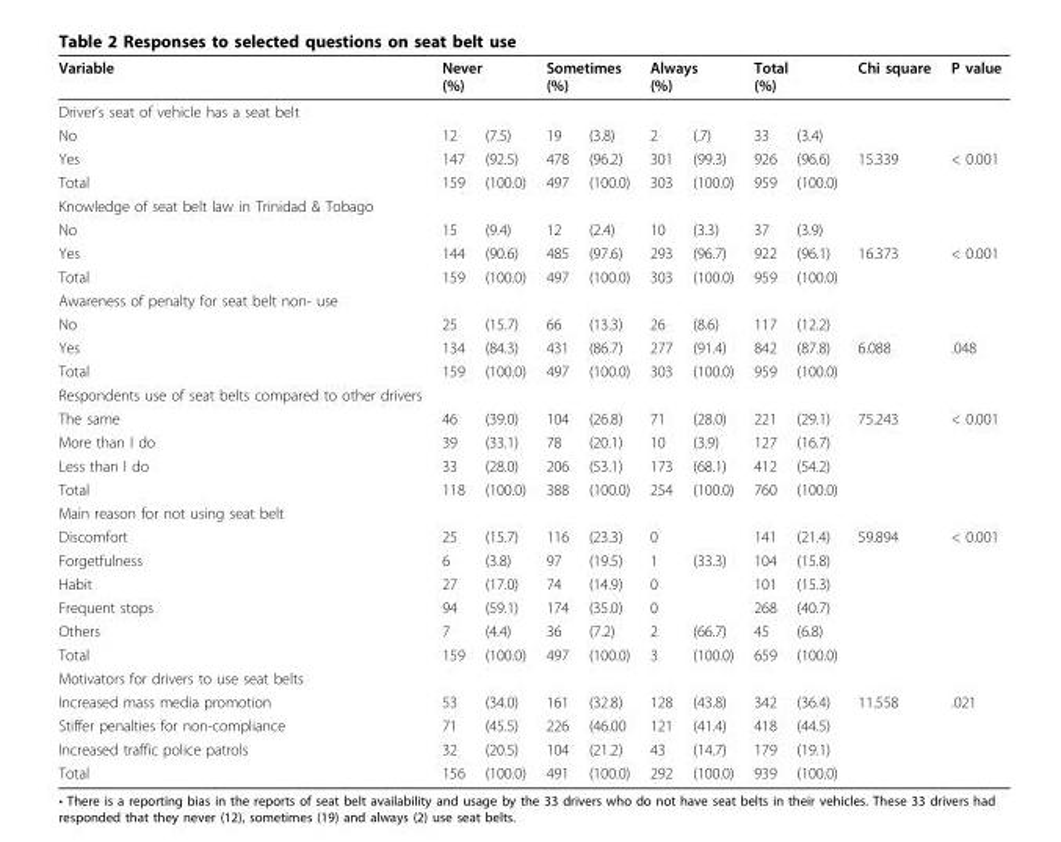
<table><thead><tr><td rowspan="2">Variable Driver’s seat of vehicle has a seat belt</td><td colspan="2">Never (%)</td><td colspan="2">Sometimes (%)</td><td colspan="2">Always (%)</td><td colspan="2">Total (%)</td><td rowspan="2">Chi square</td><td rowspan="2">P value</td></tr><tr><td></td><td></td><td></td><td></td><td></td><td></td><td></td><td></td></tr></thead><tbody><tr><td>No</td><td>12</td><td>(7.5)</td><td>19</td><td>(3.8)</td><td>2</td><td>(.7)</td><td>33</td><td>(3.4)</td><td></td><td></td></tr><tr><td>Yes</td><td>147</td><td>(92.5)</td><td>478</td><td>(96.2)</td><td>301</td><td>(99.3)</td><td>926</td><td>(96.6)</td><td>15.339</td><td>&lt; 0.001</td></tr><tr><td>Total</td><td>159</td><td>(100.0)</td><td>497</td><td>(100.0)</td><td>303</td><td>(100.0)</td><td>959</td><td>(100.0)</td><td></td><td></td></tr><tr><td colspan="11">Knowledge of seat belt law in Trinidad &amp; Tobago</td></tr><tr><td>No</td><td>15</td><td>(9.4)</td><td>12</td><td>(2.4)</td><td>10</td><td>(3.3)</td><td>37</td><td>(3.9)</td><td></td><td></td></tr><tr><td>Yes</td><td>144</td><td>(90.6)</td><td>485</td><td>(97.6)</td><td>293</td><td>(96.7)</td><td>922</td><td>(96.1)</td><td>16.373</td><td>&lt; 0.001</td></tr><tr><td>Total</td><td>159</td><td>(100.0)</td><td>497</td><td>(100.0)</td><td>303</td><td>(100.0)</td><td>959</td><td>(100.0)</td><td></td><td></td></tr><tr><td colspan="11">Awareness of penalty for seat belt non- use</td></tr><tr><td>No</td><td>25</td><td>(15.7)</td><td>66</td><td>(13.3)</td><td>26</td><td>(8.6)</td><td>117</td><td>(12.2)</td><td></td><td></td></tr><tr><td>Yes</td><td>134</td><td>(84.3)</td><td>431</td><td>(86.7)</td><td>277</td><td>(91.4)</td><td>842</td><td>(87.8)</td><td>6.088</td><td>.048</td></tr><tr><td>Total</td><td>159</td><td>(100.0)</td><td>497</td><td>(100.0)</td><td>303</td><td>(100.0)</td><td>959</td><td>(100.0)</td><td></td><td></td></tr><tr><td colspan="11">Respondents use of seat belts compared to other drivers</td></tr><tr><td>The same</td><td>46</td><td>(39.0)</td><td>104</td><td>(26.8)</td><td>71</td><td>(28.0)</td><td>221</td><td>(29.1)</td><td>75.243</td><td>&lt; 0.001</td></tr><tr><td>More than I do</td><td>39</td><td>(33.1)</td><td>78</td><td>(20.1)</td><td>10</td><td>(3.9)</td><td>127</td><td>(16.7)</td><td></td><td></td></tr><tr><td>Less than I do</td><td>33</td><td>(28.0)</td><td>206</td><td>(53.1)</td><td>173</td><td>(68.1)</td><td>412</td><td>(54.2)</td><td></td><td></td></tr><tr><td>Total</td><td>118</td><td>(100.0)</td><td>388</td><td>(100.0)</td><td>254</td><td>(100.0)</td><td>760</td><td>(100.0)</td><td></td><td></td></tr><tr><td colspan="11">Main reason for not using seat belt</td></tr><tr><td>Discomfort</td><td>25</td><td>(15.7)</td><td>116</td><td>(23.3)</td><td>0</td><td></td><td>141</td><td>(21.4)</td><td>59.894</td><td>&lt; 0.001</td></tr><tr><td>Forgetfulness</td><td>6</td><td>(3.8)</td><td>97</td><td>(19.5)</td><td>1</td><td>(33.3)</td><td>104</td><td>(15.8)</td><td></td><td></td></tr><tr><td>Habit</td><td>27</td><td>(17.0)</td><td>74</td><td>(14.9)</td><td>0</td><td></td><td>101</td><td>(15.3)</td><td></td><td></td></tr><tr><td>Frequent stops</td><td>94</td><td>(59.1)</td><td>174</td><td>(35.0)</td><td>0</td><td></td><td>268</td><td>(40.7)</td><td></td><td></td></tr><tr><td>Others</td><td>7</td><td>(4.4)</td><td>36</td><td>(7.2)</td><td>2</td><td>(66.7)</td><td>45</td><td>(6.8)</td><td></td><td></td></tr><tr><td>Total</td><td>159</td><td>(100.0)</td><td>497</td><td>(100.0)</td><td>3</td><td>(100.0)</td><td>659</td><td>(100.0)</td><td></td><td></td></tr><tr><td colspan="11">Motivators for drivers to use seat belts</td></tr><tr><td>Increased mass media promotion</td><td>53</td><td>(34.0)</td><td>161</td><td>(32.8)</td><td>128</td><td>(43.8)</td><td>342</td><td>(36.4)</td><td>11.558</td><td>.021</td></tr><tr><td>Stiffer penalties for non-compliance</td><td>71</td><td>(45.5)</td><td>226</td><td>(46.00</td><td>121</td><td>(41.4)</td><td>418</td><td>(44.5)</td><td></td><td></td></tr><tr><td>Increased traffic police patrols</td><td>32</td><td>(20.5)</td><td>104</td><td>(21.2)</td><td>43</td><td>(14.7)</td><td>179</td><td>(19.1)</td><td></td><td></td></tr><tr><td>Total</td><td>156</td><td>(100.0)</td><td>491</td><td>(100.0)</td><td>292</td><td>(100.0)</td><td>939</td><td>(100.0)</td><td></td><td></td></tr></tbody></table>